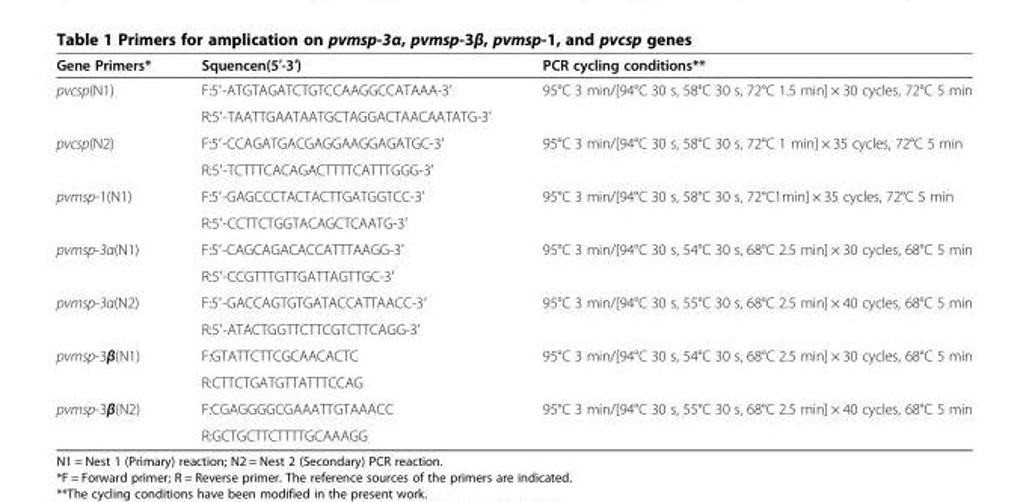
<table><thead><tr><td>Gene Primers*</td><td>Squencen(5′-3′)</td><td>PCR cycling conditions**</td></tr></thead><tbody><tr><td rowspan="2">pvcsp(N1)</td><td>F:5′-ATGTAGATCTGTCCAAGGCCATAAA-3′</td><td rowspan="2">95°C 3 min/[94°C 30 s, 58°C 30 s, 72°C 1.5 min] × 30 cycles, 72°C 5 min</td></tr><tr><td>R:5′-TAATTGAATAATGCTAGGACTAACAATATG-3′</td></tr><tr><td rowspan="2">pvcsp(N2)</td><td>F:5′-CCAGATGACGAGGAAGGAGATGC-3′</td><td rowspan="2">95°C 3 min/[94°C 30 s, 58°C 30 s, 72°C 1 min] × 35 cycles, 72°C 5 min</td></tr><tr><td>R:5′-TCTTTCACAGACTTTTCATTTGGG-3′</td></tr><tr><td rowspan="2">pvmsp-1(N1)</td><td>F:5′-GAGCCCTACTACTTGATGGTCC-3′</td><td rowspan="2">95°C 3 min/[94°C 30 s, 58°C 30 s, 72°C1min] × 35 cycles, 72°C 5 min</td></tr><tr><td>R:5′-CCTTCTGGTACAGCTCAATG-3′</td></tr><tr><td rowspan="2">pvmsp-3α(N1)</td><td>F:5′-CAGCAGACACCATTTAAGG-3′</td><td rowspan="2">95°C 3 min/[94°C 30 s, 54°C 30 s, 68°C 2.5 min] × 30 cycles, 68°C 5 min</td></tr><tr><td>R:5′-CCGTTTGTTGATTAGTTGC-3′</td></tr><tr><td rowspan="2">pvmsp-3α(N2)</td><td>F:5′-GACCAGTGTGATACCATTAACC-3′</td><td rowspan="2">95°C 3 min/[94°C 30 s, 55°C 30 s, 68°C 2.5 min] × 40 cycles, 68°C 5 min</td></tr><tr><td>R:5′-ATACTGGTTCTTCGTCTTCAGG-3′</td></tr><tr><td rowspan="2">pvmsp-3β(N1)</td><td>F:GTATTCTTCGCAACACTC</td><td rowspan="2">95°C 3 min/[94°C 30 s, 54°C 30 s, 68°C 2.5 min] × 30 cycles, 68°C 5 min</td></tr><tr><td>R:CTTCTGATGTTATTTCCAG</td></tr><tr><td rowspan="2">pvmsp-3β(N2)</td><td>F:CGAGGGGCGAAATTGTAAACC</td><td rowspan="2">95°C 3 min/[94°C 30 s, 55°C 30 s, 68°C 2.5 min] × 40 cycles, 68°C 5 min</td></tr><tr><td>R:GCTGCTTCTTTTGCAAAGG</td></tr></tbody></table>